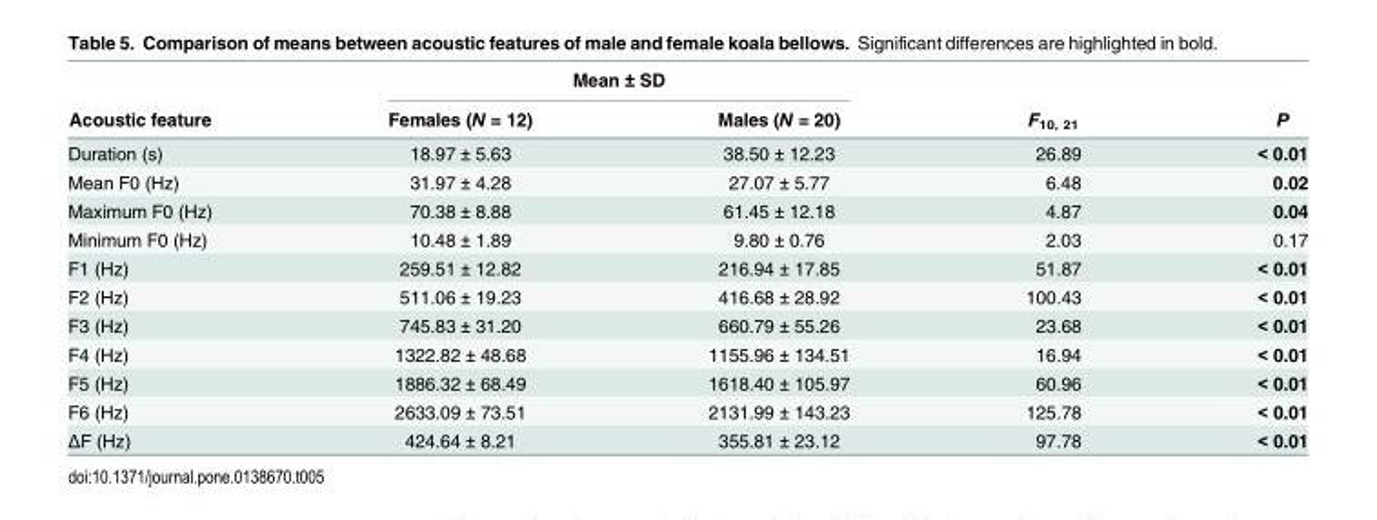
<table><thead><tr><td rowspan="2">Acoustic feature</td><td colspan="2">Mean ± SD</td><td rowspan="2">F<sub>10, 21</sub></td><td rowspan="2">P</td></tr><tr><td>Females (N = 12)</td><td>Males (N = 20)</td></tr></thead><tbody><tr><td>Duration (s)</td><td>18.97 ± 5.63</td><td>38.50 ± 12.23</td><td>26.89</td><td>&lt; 0.01</td></tr><tr><td>Mean F0 (Hz)</td><td>31.97 ± 4.28</td><td>27.07 ± 5.77</td><td>6.48</td><td>0.02</td></tr><tr><td>Maximum F0 (Hz)</td><td>70.38 ± 8.88</td><td>61.45 ± 12.18</td><td>4.87</td><td>0.04</td></tr><tr><td>Minimum F0 (Hz)</td><td>10.48 ± 1.89</td><td>9.80 ± 0.76</td><td>2.03</td><td>0.17</td></tr><tr><td>F1 (Hz)</td><td>259.51 ± 12.82</td><td>216.94 ± 17.85</td><td>51.87</td><td>&lt; 0.01</td></tr><tr><td>F2 (Hz)</td><td>511.06 ± 19.23</td><td>416.68 ± 28.92</td><td>100.43</td><td>&lt; 0.01</td></tr><tr><td>F3 (Hz)</td><td>745.83 ± 31.20</td><td>660.79 ± 55.26</td><td>23.68</td><td>&lt; 0.01</td></tr><tr><td>F4 (Hz)</td><td>1322.82 ± 48.68</td><td>1155.96 ± 134.51</td><td>16.94</td><td>&lt; 0.01</td></tr><tr><td>F5 (Hz)</td><td>1886.32 ± 68.49</td><td>1618.40 ± 105.97</td><td>60.96</td><td>&lt; 0.01</td></tr><tr><td>F6 (Hz)</td><td>2633.09 ± 73.51</td><td>2131.99 ± 143.23</td><td>125.78</td><td>&lt; 0.01</td></tr><tr><td>ΔF (Hz)</td><td>424.64 ± 8.21</td><td>355.81 ± 23.12</td><td>97.78</td><td>&lt; 0.01</td></tr></tbody></table>